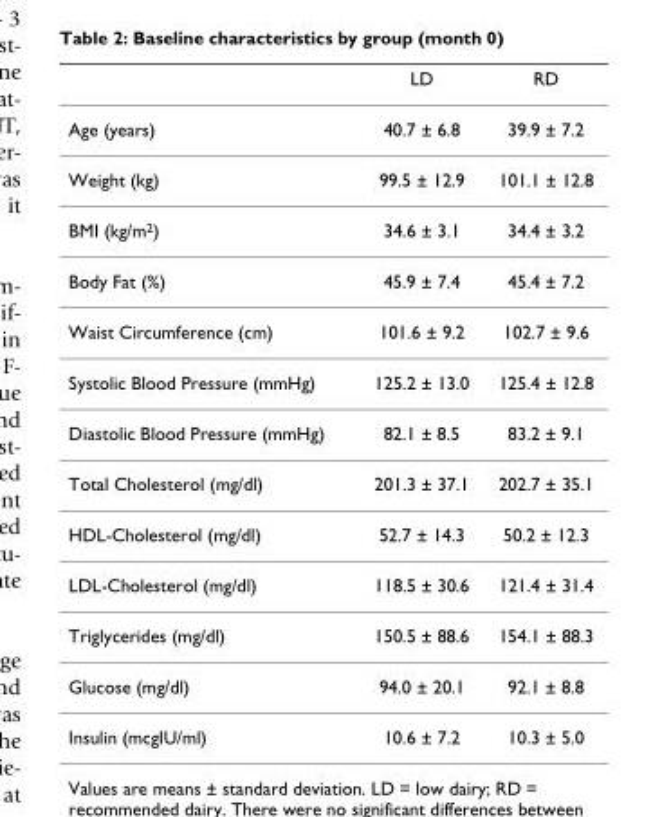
<table><thead><tr><td></td><td>LD</td><td>RD</td></tr></thead><tbody><tr><td>Age (years)</td><td>40.7 ± 6.8</td><td>39.9 ± 7.2</td></tr><tr><td>Weight (kg)</td><td>99.5 ± 12.9</td><td>101.1 ± 12.8</td></tr><tr><td>BMI (kg/m<sup>2</sup>)</td><td>34.6 ± 3.1</td><td>34.4 ± 3.2</td></tr><tr><td>Body Fat (%)</td><td>45.9 ± 7.4</td><td>45.4 ± 7.2</td></tr><tr><td>Waist Circumference (cm)</td><td>101.6 ± 9.2</td><td>102.7 ± 9.6</td></tr><tr><td>Systolic Blood Pressure (mmHg)</td><td>125.2 ± 13.0</td><td>125.4 ± 12.8</td></tr><tr><td>Diastolic Blood Pressure (mmHg)</td><td>82.1 ± 8.5</td><td>83.2 ± 9.1</td></tr><tr><td>Total Cholesterol (mg/dl)</td><td>201.3 ± 37.1</td><td>202.7 ± 35.1</td></tr><tr><td>HDL-Cholesterol (mg/dl)</td><td>52.7 ± 14.3</td><td>50.2 ± 12.3</td></tr><tr><td>LDL-Cholesterol (mg/dl)</td><td>118.5 ± 30.6</td><td>121.4 ± 31.4</td></tr><tr><td>Triglycerides (mg/dl)</td><td>150.5 ± 88.6</td><td>154.1 ± 88.3</td></tr><tr><td>Glucose (mg/dl)</td><td>94.0 ± 20.1</td><td>92.1 ± 8.8</td></tr><tr><td>Insulin (mcgIU/ml)</td><td>10.6 ± 7.2</td><td>10.3 ± 5.0</td></tr></tbody></table>